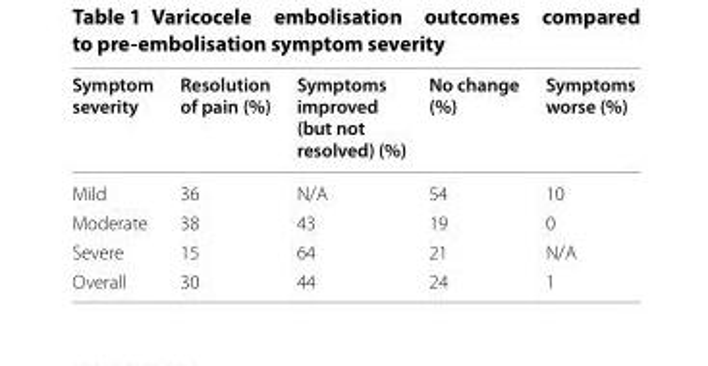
<table><thead><tr><td>Symptom severity</td><td>Resolution of pain (%)</td><td>Symptoms improved (but not resolved) (%)</td><td>No change (%)</td><td>Symptoms worse (%)</td></tr></thead><tbody><tr><td>Mild</td><td>36</td><td>N/A</td><td>54</td><td>10</td></tr><tr><td>Moderate</td><td>38</td><td>43</td><td>19</td><td>0</td></tr><tr><td>Severe</td><td>15</td><td>64</td><td>21</td><td>N/A</td></tr><tr><td>Overall</td><td>30</td><td>44</td><td>24</td><td>1</td></tr></tbody></table>